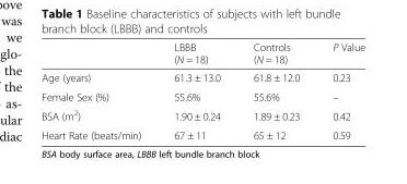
<table><thead><tr><td></td><td>LBBB (N = 18)</td><td>Controls (N = 18)</td><td>P Value</td></tr></thead><tbody><tr><td>Age (years)</td><td>61.3 ± 13.0</td><td>61.8 ± 12.0</td><td>0.23</td></tr><tr><td>Female Sex (%)</td><td>55.6%</td><td>55.6%</td><td>–</td></tr><tr><td>BSA (m<sup>2</sup>)</td><td>1.90 ± 0.24</td><td>1.89 ± 0.23</td><td>0.42</td></tr><tr><td>Heart Rate (beats/min)</td><td>67 ± 11</td><td>65 ± 12</td><td>0.59</td></tr></tbody></table>